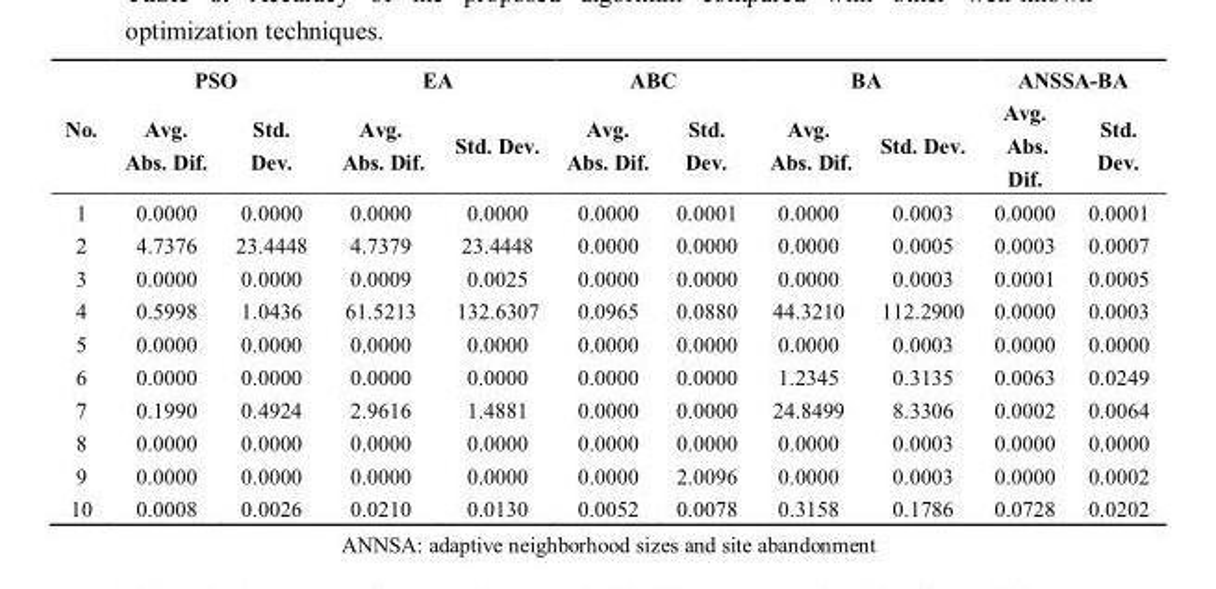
<table><thead><tr><td rowspan="2">No.</td><td colspan="2">PSO</td><td colspan="2">EA</td><td colspan="2">ABC</td><td colspan="2">BA</td><td colspan="2">ANSSA-BA</td></tr><tr><td>Avg. Abs. Dif.</td><td>Std. Dev.</td><td>Avg. Abs. Dif.</td><td>Std. Dev.</td><td>Avg. Abs. Dif.</td><td>Std. Dev.</td><td>Avg. Abs. Dif.</td><td>Std. Dev.</td><td>Avg. Abs. Dif.</td><td>Std. Dev.</td></tr></thead><tbody><tr><td>1</td><td>0.0000</td><td>0.0000</td><td>0.0000</td><td>0.0000</td><td>0.0000</td><td>0.0001</td><td>0.0000</td><td>0.0003</td><td>0.0000</td><td>0.0001</td></tr><tr><td>2</td><td>4.7376</td><td>23.4448</td><td>4.7379</td><td>23.4448</td><td>0.0000</td><td>0.0000</td><td>0.0000</td><td>0.0005</td><td>0.0003</td><td>0.0007</td></tr><tr><td>3</td><td>0.0000</td><td>0.0000</td><td>0.0009</td><td>0.0025</td><td>0.0000</td><td>0.0000</td><td>0.0000</td><td>0.0003</td><td>0.0001</td><td>0.0005</td></tr><tr><td>4</td><td>0.5998</td><td>1.0436</td><td>61.5213</td><td>132.6307</td><td>0.0965</td><td>0.0880</td><td>44.3210</td><td>112.2900</td><td>0.0000</td><td>0.0003</td></tr><tr><td>5</td><td>0.0000</td><td>0.0000</td><td>0.0000</td><td>0.0000</td><td>0.0000</td><td>0.0000</td><td>0.0000</td><td>0.0003</td><td>0.0000</td><td>0.0000</td></tr><tr><td>6</td><td>0.0000</td><td>0.0000</td><td>0.0000</td><td>0.0000</td><td>0.0000</td><td>0.0000</td><td>1.2345</td><td>0.3135</td><td>0.0063</td><td>0.0249</td></tr><tr><td>7</td><td>0.1990</td><td>0.4924</td><td>2.9616</td><td>1.4881</td><td>0.0000</td><td>0.0000</td><td>24.8499</td><td>8.3306</td><td>0.0002</td><td>0.0064</td></tr><tr><td>8</td><td>0.0000</td><td>0.0000</td><td>0.0000</td><td>0.0000</td><td>0.0000</td><td>0.0000</td><td>0.0000</td><td>0.0003</td><td>0.0000</td><td>0.0000</td></tr><tr><td>9</td><td>0.0000</td><td>0.0000</td><td>0.0000</td><td>0.0000</td><td>0.0000</td><td>2.0096</td><td>0.0000</td><td>0.0003</td><td>0.0000</td><td>0.0002</td></tr><tr><td>10</td><td>0.0008</td><td>0.0026</td><td>0.0210</td><td>0.0130</td><td>0.0052</td><td>0.0078</td><td>0.3158</td><td>0.1786</td><td>0.0728</td><td>0.0202</td></tr></tbody></table>